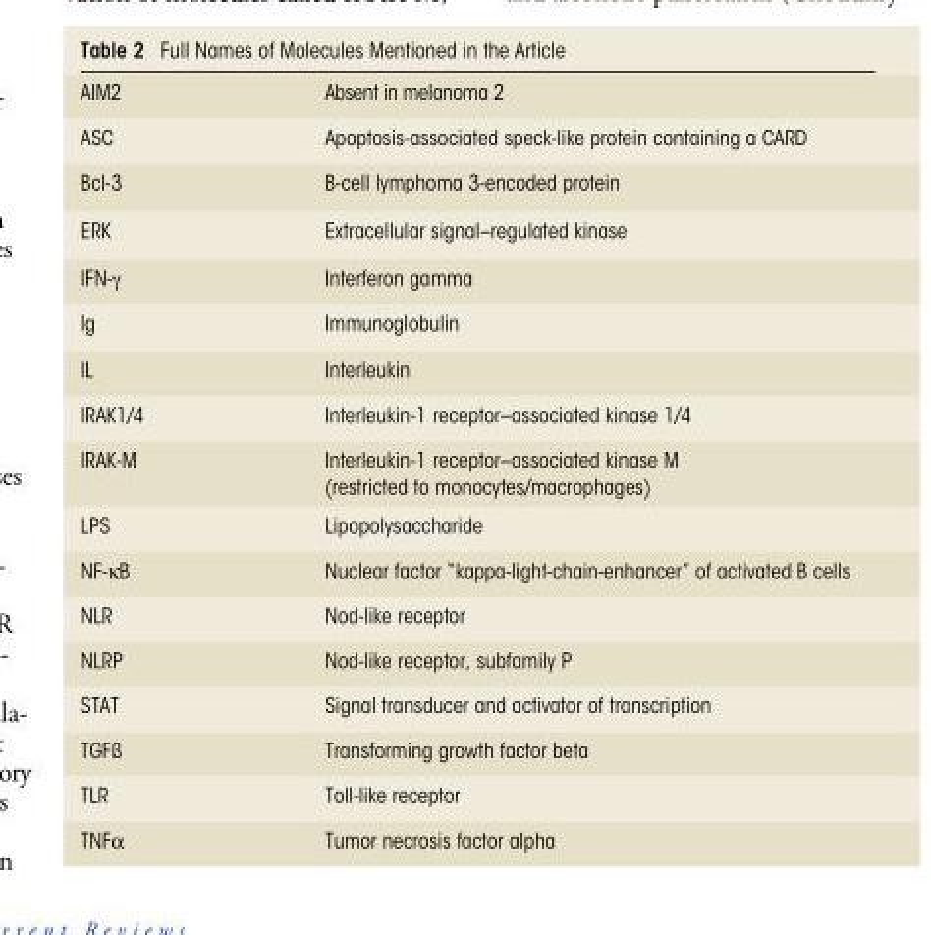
<table><tbody><tr><td>AIM2</td><td>Absent in melanoma 2</td></tr><tr><td>ASC</td><td>Apoptosis-associated speck-like protein containing a CARD</td></tr><tr><td>Bcl-3</td><td>B-cell lymphoma 3-encoded protein</td></tr><tr><td>ERK</td><td>Extracellular signal–regulated kinase</td></tr><tr><td>IFN-γ</td><td>Interferon gamma</td></tr><tr><td>Ig</td><td>Immunoglobulin</td></tr><tr><td>IL</td><td>Interleukin</td></tr><tr><td>IRAK1/4</td><td>Interleukin-1 receptor–associated kinase 1/4</td></tr><tr><td>IRAK-M</td><td>Interleukin-1 receptor–associated kinase M (restricted to monocytes/macrophages)</td></tr><tr><td>LPS</td><td>Lipopolysaccharide</td></tr><tr><td>NF-κB</td><td>Nuclear factor “kappa-light-chain-enhancer” of activated B cells</td></tr><tr><td>NLR</td><td>Nod-like receptor</td></tr><tr><td>NLRP</td><td>Nod-like receptor, subfamily P</td></tr><tr><td>STAT</td><td>Signal transducer and activator of transcription</td></tr><tr><td>TGFß</td><td>Transforming growth factor beta</td></tr><tr><td>TLR</td><td>Toll-like receptor</td></tr><tr><td>TNFα</td><td>Tumor necrosis factor alpha</td></tr></tbody></table>